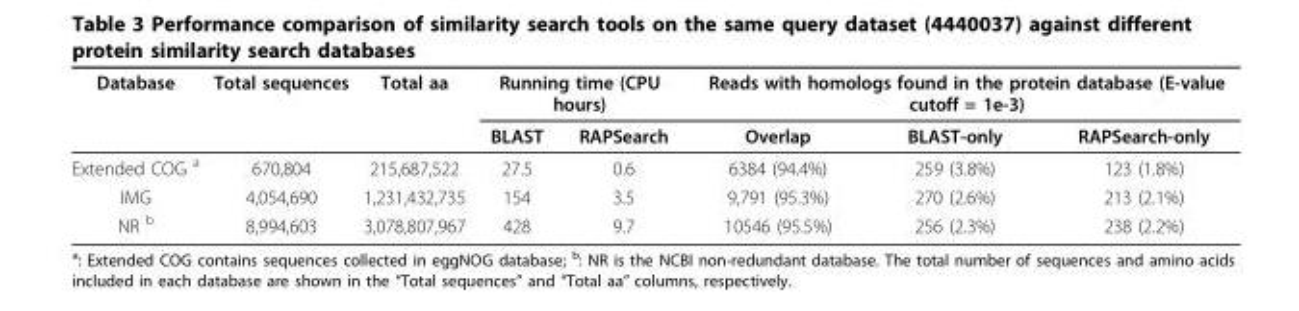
<table><thead><tr><td rowspan="2">Database</td><td rowspan="2">Total sequences</td><td rowspan="2">Total aa</td><td colspan="2">Running time (CPU hours)</td><td colspan="3">Reads with homologs found in the protein database (E-value cutoff = 1e-3)</td></tr><tr><td>BLAST</td><td>RAPSearch</td><td>Overlap</td><td>BLAST-only</td><td>RAPSearch-only</td></tr></thead><tbody><tr><td>Extended COG <sup>a</sup></td><td>670,804</td><td>215,687,522</td><td>27.5</td><td>0.6</td><td>6384 (94.4%)</td><td>259 (3.8%)</td><td>123 (1.8%)</td></tr><tr><td>IMG</td><td>4,054,690</td><td>1,231,432,735</td><td>154</td><td>3.5</td><td>9,791 (95.3%)</td><td>270 (2.6%)</td><td>213 (2.1%)</td></tr><tr><td>NR <sup>b</sup></td><td>8,994,603</td><td>3,078,807,967</td><td>428</td><td>9.7</td><td>10546 (95.5%)</td><td>256 (2.3%)</td><td>238 (2.2%)</td></tr></tbody></table>